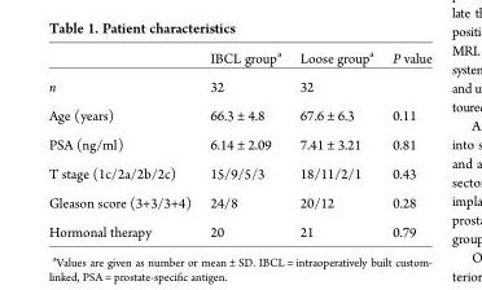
<table><thead><tr><td></td><td>IBCL group<sup>a</sup></td><td>Loose group<sup>a</sup></td><td>P value</td></tr></thead><tbody><tr><td>n</td><td>32</td><td>32</td><td></td></tr><tr><td>Age (years)</td><td>66.3 ± 4.8</td><td>67.6 ± 6.3</td><td>0.11</td></tr><tr><td>PSA (ng/ml)</td><td>6.14 ± 2.09</td><td>7.41 ± 3.21</td><td>0.81</td></tr><tr><td>T stage (1c/2a/2b/2c)</td><td>15/9/5/3</td><td>18/11/2/1</td><td>0.43</td></tr><tr><td>Gleason score (3+3/3+4)</td><td>24/8</td><td>20/12</td><td>0.28</td></tr><tr><td>Hormonal therapy</td><td>20</td><td>21</td><td>0.79</td></tr></tbody></table>